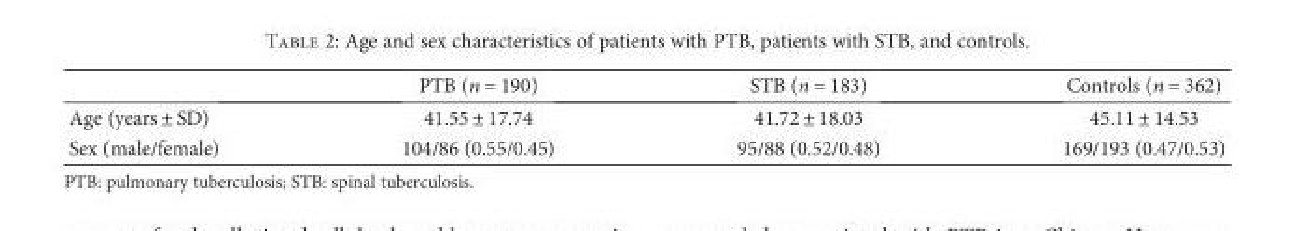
<table><thead><tr><td></td><td>PTB (n = 190)</td><td>STB (n = 183)</td><td>Controls (n = 362)</td></tr></thead><tbody><tr><td>Age (years ± SD)</td><td>41.55 ± 17.74</td><td>41.72 ± 18.03</td><td>45.11 ± 14.53</td></tr><tr><td>Sex (male/female)</td><td>104/86 (0.55/0.45)</td><td>95/88 (0.52/0.48)</td><td>169/193 (0.47/0.53)</td></tr></tbody></table>